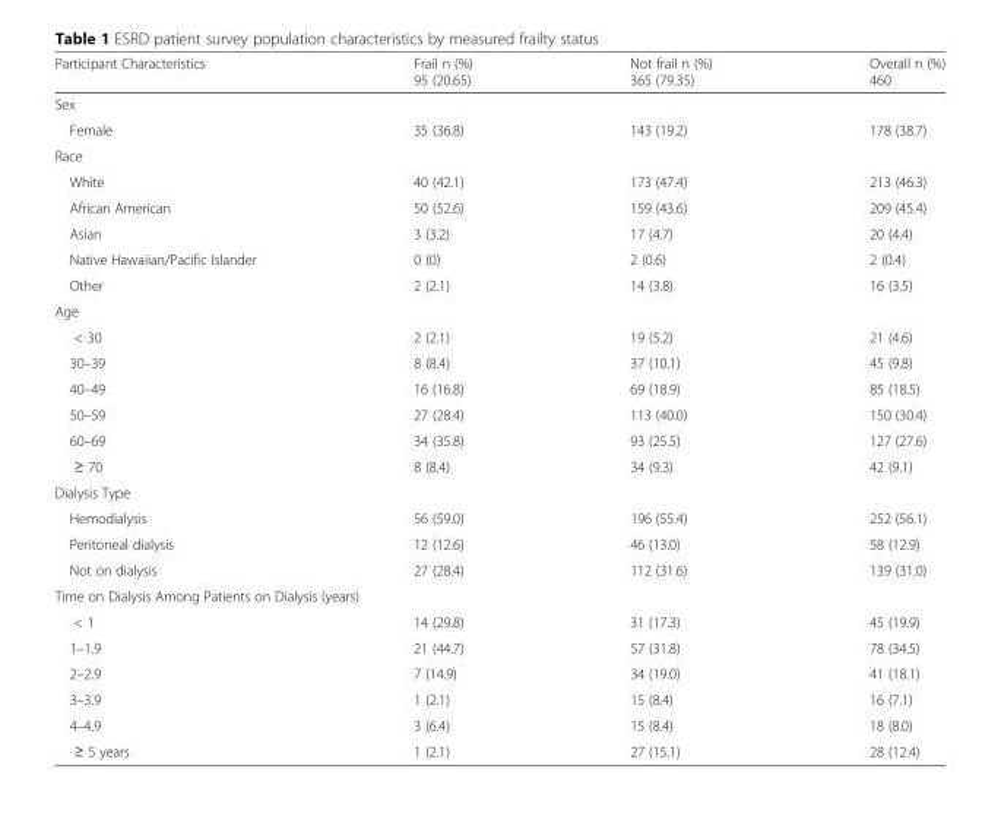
<table><thead><tr><td>Participant Characteristics</td><td>Frail n (%) 95 (20.65)</td><td>Not frail n (%) 365 (79.35)</td><td>Overall n (%) 460</td></tr></thead><tbody><tr><td colspan="4">Sex</td></tr><tr><td>Female</td><td>35 (36.8)</td><td>143 (19.2)</td><td>178 (38.7)</td></tr><tr><td colspan="4">Race</td></tr><tr><td>White</td><td>40 (42.1)</td><td>173 (47.4)</td><td>213 (46.3)</td></tr><tr><td>African American</td><td>50 (52.6)</td><td>159 (43.6)</td><td>209 (45.4)</td></tr><tr><td>Asian</td><td>3 (3.2)</td><td>17 (4.7)</td><td>20 (4.4)</td></tr><tr><td>Native Hawaiian/Pacific Islander</td><td>0 (0)</td><td>2 (0.6)</td><td>2 (0.4)</td></tr><tr><td>Other</td><td>2 (2.1)</td><td>14 (3.8)</td><td>16 (3.5)</td></tr><tr><td colspan="4">Age</td></tr><tr><td>&lt; 30</td><td>2 (2.1)</td><td>19 (5.2)</td><td>21 (4.6)</td></tr><tr><td>30–39</td><td>8 (8.4)</td><td>37 (10.1)</td><td>45 (9.8)</td></tr><tr><td>40–49</td><td>16 (16.8)</td><td>69 (18.9)</td><td>85 (18.5)</td></tr><tr><td>50–59</td><td>27 (28.4)</td><td>113 (40.0)</td><td>150 (30.4)</td></tr><tr><td>60–69</td><td>34 (35.8)</td><td>93 (25.5)</td><td>127 (27.6)</td></tr><tr><td>≥ 70</td><td>8 (8.4)</td><td>34 (9.3)</td><td>42 (9.1)</td></tr><tr><td colspan="4">Dialysis Type</td></tr><tr><td>Hemodialysis</td><td>56 (59.0)</td><td>196 (55.4)</td><td>252 (56.1)</td></tr><tr><td>Peritoneal dialysis</td><td>12 (12.6)</td><td>46 (13.0)</td><td>58 (12.9)</td></tr><tr><td>Not on dialysis</td><td>27 (28.4)</td><td>112 (31.6)</td><td>139 (31.0)</td></tr><tr><td colspan="4">Time on Dialysis Among Patients on Dialysis (years)</td></tr><tr><td>&lt; 1</td><td>14 (29.8)</td><td>31 (17.3)</td><td>45 (19.9)</td></tr><tr><td>1–1.9</td><td>21 (44.7)</td><td>57 (31.8)</td><td>78 (34.5)</td></tr><tr><td>2–2.9</td><td>7 (14.9)</td><td>34 (19.0)</td><td>41 (18.1)</td></tr><tr><td>3–3.9</td><td>1 (2.1)</td><td>15 (8.4)</td><td>16 (7.1)</td></tr><tr><td>4–4.9</td><td>3 (6.4)</td><td>15 (8.4)</td><td>18 (8.0)</td></tr><tr><td>≥ 5 years</td><td>1 (2.1)</td><td>27 (15.1)</td><td>28 (12.4)</td></tr></tbody></table>